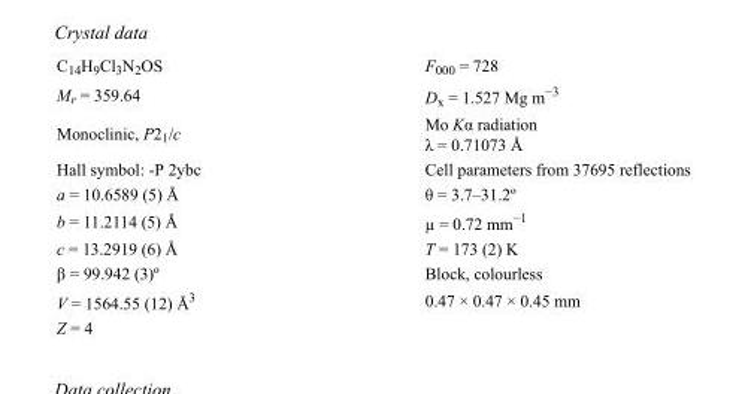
<table><tbody><tr><td>C<sub>14</sub>H<sub>9</sub>Cl<sub>3</sub>N<sub>2</sub>OS</td><td>F000 = 728</td></tr><tr><td>M<sub>r</sub> = 359.64</td><td>D<sub>x</sub> = 1.527 Mg m<sup>−3</sup></td></tr><tr><td>Monoclinic, P2<sub>1</sub>/c</td><td>Mo Kα radiation λ = 0.71073 Å</td></tr><tr><td>Hall symbol: -P 2ybc</td><td>Cell parameters from 37695 reflections</td></tr><tr><td>a = 10.6589 (5) Å</td><td>θ = 3.7–31.2º</td></tr><tr><td>b = 11.2114 (5) Å</td><td>µ = 0.72 mm<sup>−1</sup></td></tr><tr><td>c = 13.2919 (6) Å</td><td>T = 173 (2) K</td></tr><tr><td>β = 99.942 (3)º</td><td>Block, colourless</td></tr><tr><td>V = 1564.55 (12) Å<sup>3</sup></td><td>0.47 × 0.47 × 0.45 mm</td></tr><tr><td>Z = 4</td><td></td></tr></tbody></table>